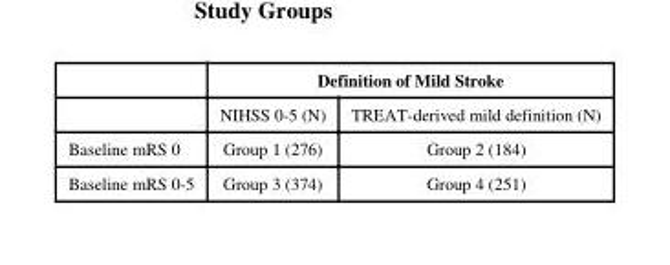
<table><thead><tr><td rowspan="2"></td><td colspan="2">Definition of Mild Stroke</td></tr><tr><td>NIHSS 0-5 (N)</td><td>TREAT-derived mild definition (N)</td></tr></thead><tbody><tr><td>Baseline mRS 0</td><td>Group 1 (276)</td><td>Group 2 (184)</td></tr><tr><td>Baseline mRS 0-5</td><td>Group 3 (374)</td><td>Group 4 (251)</td></tr></tbody></table>